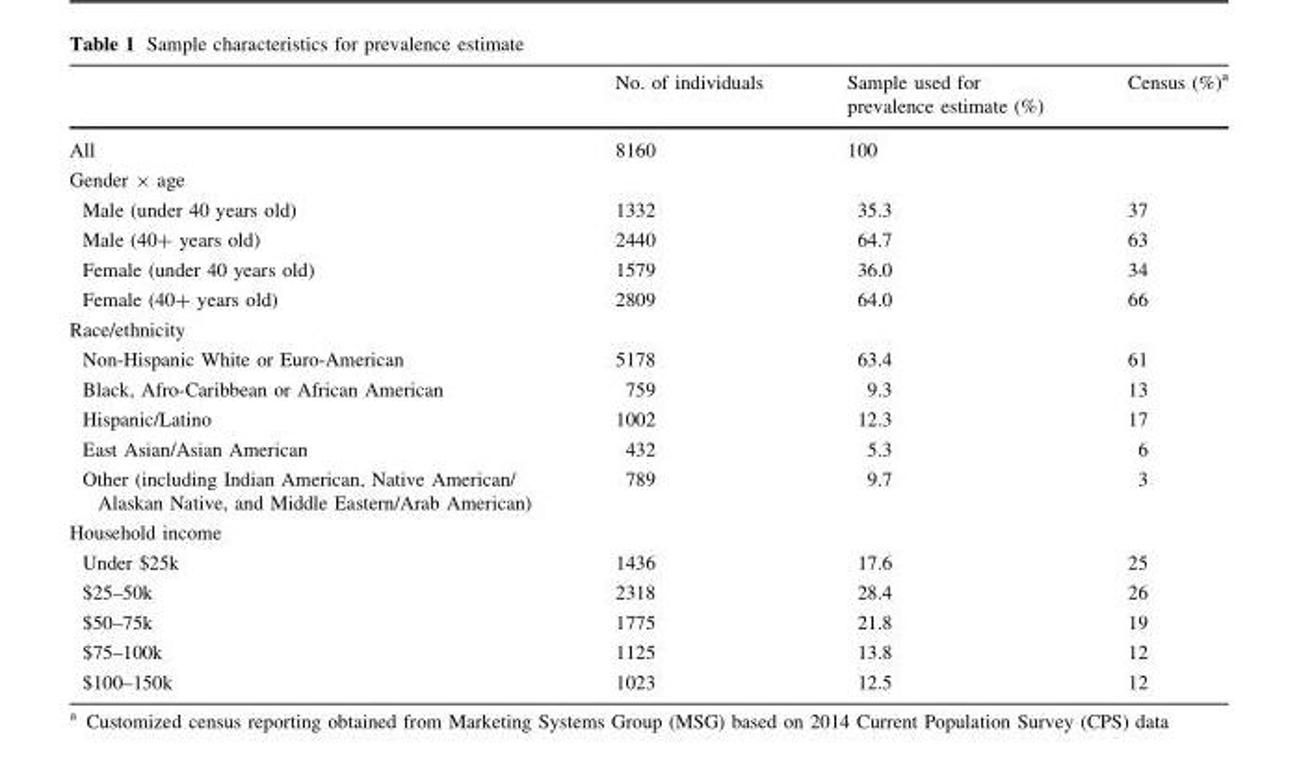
<table><thead><tr><td></td><td>No. of individuals</td><td>Sample used for prevalence estimate (%)</td><td>Census (%)<sup>a</sup></td></tr></thead><tbody><tr><td>All</td><td>8160</td><td>100</td><td></td></tr><tr><td colspan="4">Gender × age</td></tr><tr><td>Male (under 40 years old)</td><td>1332</td><td>35.3</td><td>37</td></tr><tr><td>Male (40+ years old)</td><td>2440</td><td>64.7</td><td>63</td></tr><tr><td>Female (under 40 years old)</td><td>1579</td><td>36.0</td><td>34</td></tr><tr><td>Female (40+ years old)</td><td>2809</td><td>64.0</td><td>66</td></tr><tr><td colspan="4">Race/ethnicity</td></tr><tr><td>Non-Hispanic White or Euro-American</td><td>5178</td><td>63.4</td><td>61</td></tr><tr><td>Black, Afro-Caribbean or African American</td><td>759</td><td>9.3</td><td>13</td></tr><tr><td>Hispanic/Latino</td><td>1002</td><td>12.3</td><td>17</td></tr><tr><td>East Asian/Asian American</td><td>432</td><td>5.3</td><td>6</td></tr><tr><td>Other (including Indian American, Native American/ Alaskan Native, and Middle Eastern/Arab American)</td><td>789</td><td>9.7</td><td>3</td></tr><tr><td colspan="4">Household income</td></tr><tr><td>Under $25k</td><td>1436</td><td>17.6</td><td>25</td></tr><tr><td>$25–50k</td><td>2318</td><td>28.4</td><td>26</td></tr><tr><td>$50–75k</td><td>1775</td><td>21.8</td><td>19</td></tr><tr><td>$75–100k</td><td>1125</td><td>13.8</td><td>12</td></tr><tr><td>$100–150k</td><td>1023</td><td>12.5</td><td>12</td></tr></tbody></table>